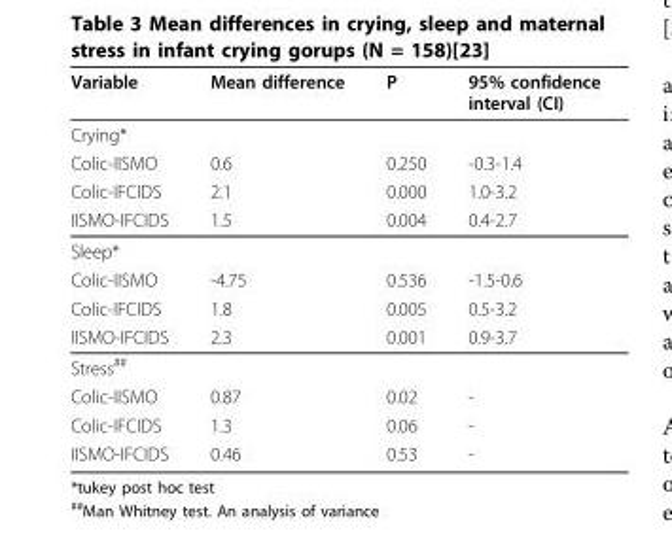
<table><thead><tr><td>Variable</td><td>Mean difference</td><td>P</td><td>95% confidence interval (CI)</td></tr></thead><tbody><tr><td colspan="4">Crying*</td></tr><tr><td>Colic-IISMO</td><td>0.6</td><td>0.250</td><td>-0.3-1.4</td></tr><tr><td>Colic-IFCIDS</td><td>2.1</td><td>0.000</td><td>1.0-3.2</td></tr><tr><td>IISMO-IFCIDS</td><td>1.5</td><td>0.004</td><td>0.4-2.7</td></tr><tr><td colspan="4">Sleep*</td></tr><tr><td>Colic-IISMO</td><td>-4.75</td><td>0.536</td><td>-1.5-0.6</td></tr><tr><td>Colic-IFCIDS</td><td>1.8</td><td>0.005</td><td>0.5-3.2</td></tr><tr><td>IISMO-IFCIDS</td><td>2.3</td><td>0.001</td><td>0.9-3.7</td></tr><tr><td colspan="4">Stress<sup>##</sup></td></tr><tr><td>Colic-IISMO</td><td>0.87</td><td>0.02</td><td>-</td></tr><tr><td>Colic-IFCIDS</td><td>1.3</td><td>0.06</td><td>-</td></tr><tr><td>IISMO-IFCIDS</td><td>0.46</td><td>0.53</td><td>-</td></tr></tbody></table>